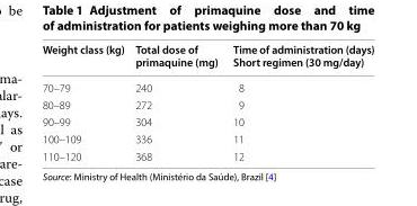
<table><thead><tr><td>Weight class (kg)</td><td>Total dose of primaquine (mg)</td><td>Time of administration (days) Short regimen (30 mg/day)</td></tr></thead><tbody><tr><td>70–79</td><td>240</td><td>8</td></tr><tr><td>80–89</td><td>272</td><td>9</td></tr><tr><td>90–99</td><td>304</td><td>10</td></tr><tr><td>100–109</td><td>336</td><td>11</td></tr><tr><td>110–120</td><td>368</td><td>12</td></tr></tbody></table>